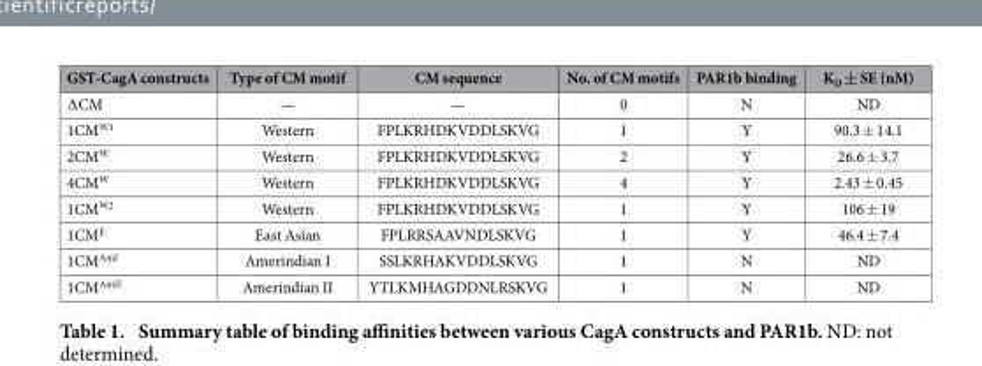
<table><thead><tr><td>GST-CagA constructs</td><td>Type of CM motif</td><td>CM sequence</td><td>No. of CM motifs</td><td>PAR1b binding</td><td>K<sub>D</sub> ± SE (nM)</td></tr></thead><tbody><tr><td>∆ CM</td><td>—</td><td>—</td><td>0</td><td>N</td><td>ND</td></tr><tr><td>1CM<sup>W1</sup></td><td>Western</td><td>FPLKRHDKVDDLSKVG</td><td>1</td><td>Y</td><td>90.3 ± 14.1</td></tr><tr><td>2CM<sup>W</sup></td><td>Western</td><td>FPLKRHDKVDDLSKVG</td><td>2</td><td>Y</td><td>26.6 ± 3.7</td></tr><tr><td>4CM<sup>W</sup></td><td>Western</td><td>FPLKRHDKVDDLSKVG</td><td>4</td><td>Y</td><td>2.43 ± 0.45</td></tr><tr><td>1CM<sup>W2</sup></td><td>Western</td><td>FPLKRHDKVDDLSKVG</td><td>1</td><td>Y</td><td>106 ± 19</td></tr><tr><td>1CM<sup>E</sup></td><td>East Asian</td><td>FPLRRSAAVNDLSKVG</td><td>1</td><td>Y</td><td>46.4 ± 7.4</td></tr><tr><td>1CM<sup>AmI</sup></td><td>Amerindian I</td><td>SSLKRHAKVDDLSKVG</td><td>1</td><td>N</td><td>ND</td></tr><tr><td>1CM<sup>AmII</sup></td><td>Amerindian II</td><td>YTLKMHAGDDNLRSKVG</td><td>1</td><td>N</td><td>ND</td></tr></tbody></table>